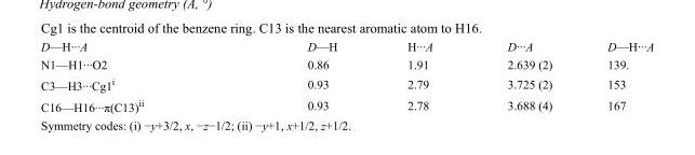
<table><tbody><tr><td>D—H···A</td><td>D—H</td><td>H···A</td><td>D···A</td><td>D—H···A</td></tr><tr><td>N1—H1···O2</td><td>0.86</td><td>1.91</td><td>2.639 (2)</td><td>139.</td></tr><tr><td>C3—H3···Cg1<sup>i</sup></td><td>0.93</td><td>2.79</td><td>3.725 (2)</td><td>153</td></tr><tr><td>C16—H16···π(C13)<sup>ii</sup></td><td>0.93</td><td>2.78</td><td>3.688 (4)</td><td>167</td></tr></tbody></table>